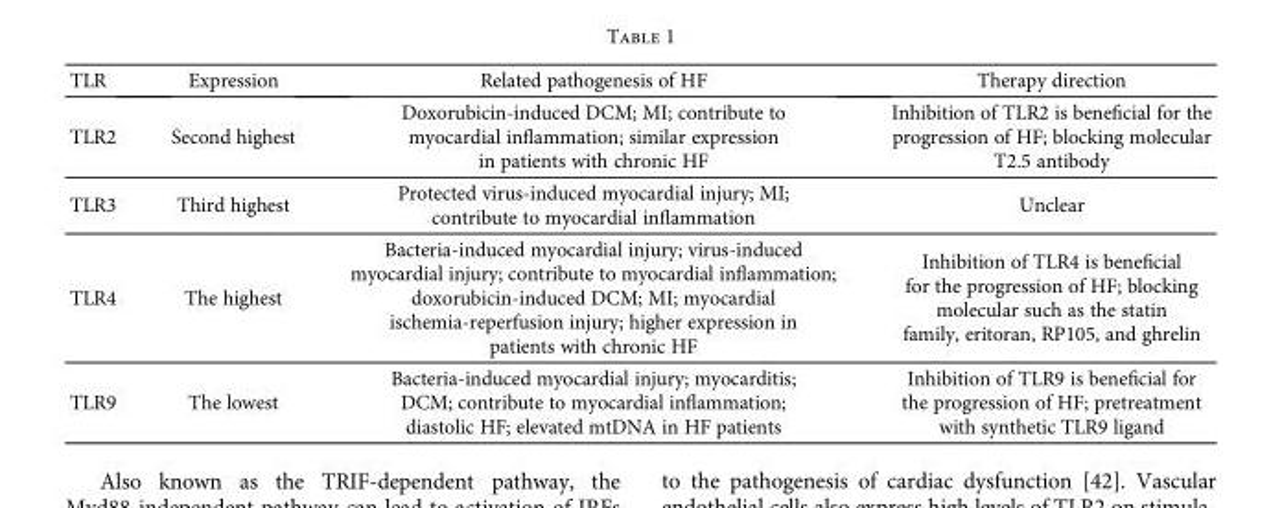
<table><thead><tr><td>TLR</td><td>Expression</td><td>Related pathogenesis of HF</td><td>Therapy direction</td></tr></thead><tbody><tr><td>TLR2</td><td>Second highest</td><td>Doxorubicin-induced DCM; MI; contribute to myocardial inflammation; similar expression in patients with chronic HF</td><td>Inhibition of TLR2 is beneficial for the progression of HF; blocking molecular T2.5 antibody</td></tr><tr><td>TLR3</td><td>Third highest</td><td>Protected virus-induced myocardial injury; MI; contribute to myocardial inflammation</td><td>Unclear</td></tr><tr><td>TLR4</td><td>The highest</td><td>Bacteria-induced myocardial injury; virus-induced myocardial injury; contribute to myocardial inflammation; doxorubicin-induced DCM; MI; myocardial ischemia-reperfusion injury; higher expression in patients with chronic HF</td><td>Inhibition of TLR4 is beneficial for the progression of HF; blocking molecular such as the statin family, eritoran, RP105, and ghrelin</td></tr><tr><td>TLR9</td><td>The lowest</td><td>Bacteria-induced myocardial injury; myocarditis; DCM; contribute to myocardial inflammation; diastolic HF; elevated mtDNA in HF patients</td><td>Inhibition of TLR9 is beneficial for the progression of HF; pretreatment with synthetic TLR9 ligand</td></tr></tbody></table>